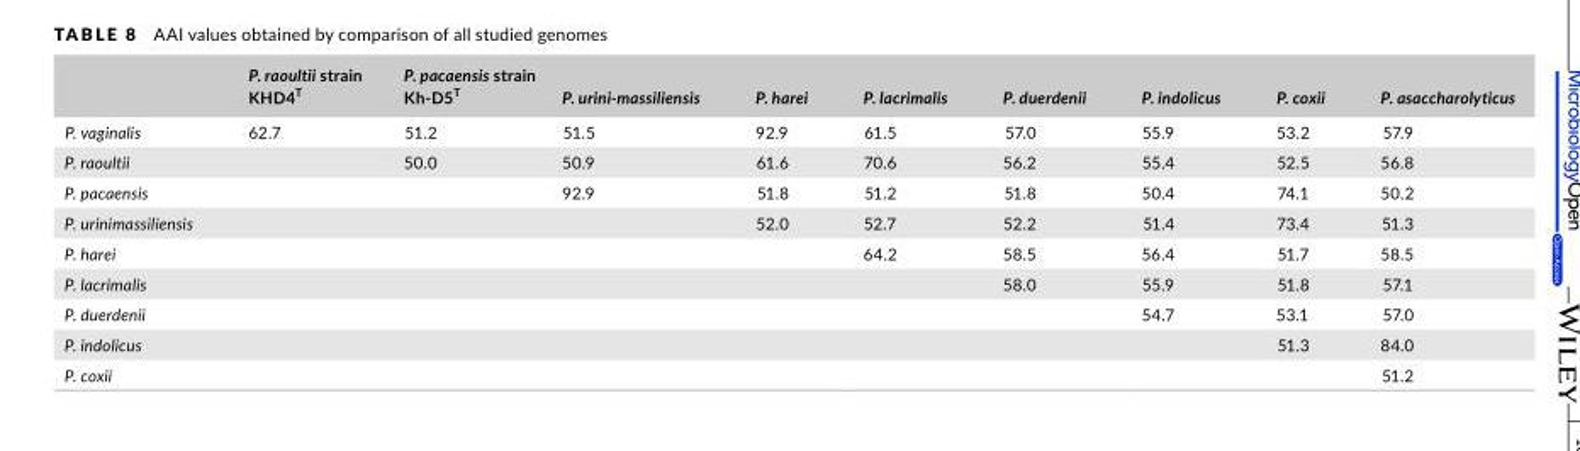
<table><thead><tr><td></td><td>P. raoultii strain KHD4<sup>T</sup></td><td>P. pacaensis strain Kh- D5<sup>T</sup></td><td>P. urini-massiliensis</td><td>P. harei</td><td>P. lacrimalis</td><td>P. duerdenii</td><td>P. indolicus</td><td>P. coxii</td><td>P. asaccharolyticus</td></tr></thead><tbody><tr><td>P. vaginalis</td><td>62.7</td><td>51.2</td><td>51.5</td><td>92.9</td><td>61.5</td><td>57.0</td><td>55.9</td><td>53.2</td><td>57.9</td></tr><tr><td>P. raoultii</td><td></td><td>50.0</td><td>50.9</td><td>61.6</td><td>70.6</td><td>56.2</td><td>55.4</td><td>52.5</td><td>56.8</td></tr><tr><td>P. pacaensis</td><td></td><td></td><td>92.9</td><td>51.8</td><td>51.2</td><td>51.8</td><td>50.4</td><td>74.1</td><td>50.2</td></tr><tr><td>P. urinimassiliensis</td><td></td><td></td><td></td><td>52.0</td><td>52.7</td><td>52.2</td><td>51.4</td><td>73.4</td><td>51.3</td></tr><tr><td>P. harei</td><td></td><td></td><td></td><td></td><td>64.2</td><td>58.5</td><td>56.4</td><td>51.7</td><td>58.5</td></tr><tr><td>P. lacrimalis</td><td></td><td></td><td></td><td></td><td></td><td>58.0</td><td>55.9</td><td>51.8</td><td>57.1</td></tr><tr><td>P. duerdenii</td><td></td><td></td><td></td><td></td><td></td><td></td><td>54.7</td><td>53.1</td><td>57.0</td></tr><tr><td>P. indolicus</td><td></td><td></td><td></td><td></td><td></td><td></td><td></td><td>51.3</td><td>84.0</td></tr><tr><td>P. coxii</td><td></td><td></td><td></td><td></td><td></td><td></td><td></td><td></td><td>51.2</td></tr></tbody></table>